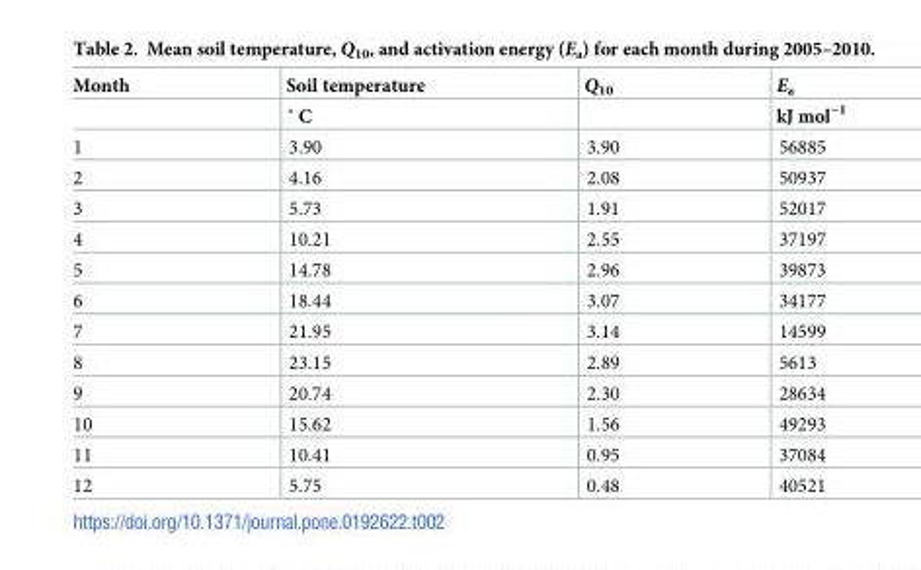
<table><thead><tr><td rowspan="2">Month</td><td rowspan="2">Soil temperature ˚ C</td><td rowspan="2">Q<sub>10</sub></td><td rowspan="2">E<sub>a</sub> kJ mol<sup>−1</sup></td></tr><tr></tr></thead><tbody><tr><td>1</td><td>3.90</td><td>3.90</td><td>56885</td></tr><tr><td>2</td><td>4.16</td><td>2.08</td><td>50937</td></tr><tr><td>3</td><td>5.73</td><td>1.91</td><td>52017</td></tr><tr><td>4</td><td>10.21</td><td>2.55</td><td>37197</td></tr><tr><td>5</td><td>14.78</td><td>2.96</td><td>39873</td></tr><tr><td>6</td><td>18.44</td><td>3.07</td><td>34177</td></tr><tr><td>7</td><td>21.95</td><td>3.14</td><td>14599</td></tr><tr><td>8</td><td>23.15</td><td>2.89</td><td>5613</td></tr><tr><td>9</td><td>20.74</td><td>2.30</td><td>28634</td></tr><tr><td>10</td><td>15.62</td><td>1.56</td><td>49293</td></tr><tr><td>11</td><td>10.41</td><td>0.95</td><td>37084</td></tr><tr><td>12</td><td>5.75</td><td>0.48</td><td>40521</td></tr></tbody></table>